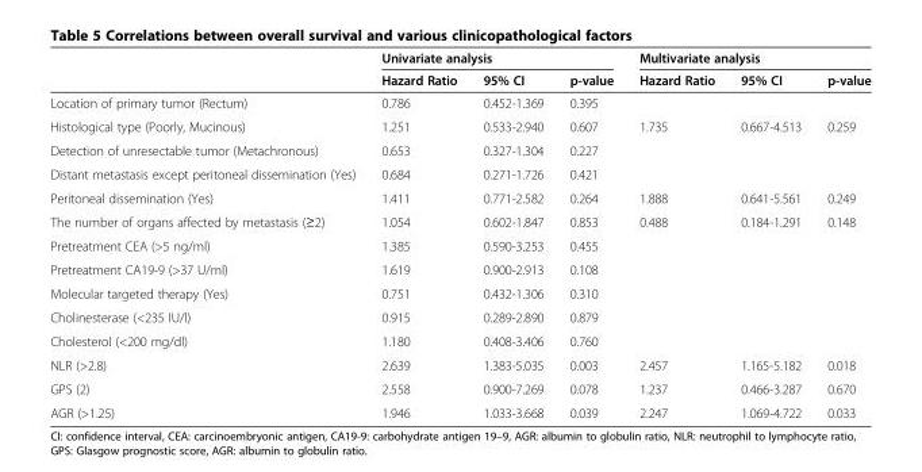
<table><thead><tr><td rowspan="2"></td><td colspan="3">Univariate analysis</td><td colspan="3">Multivariate analysis</td></tr><tr><td>Hazard Ratio</td><td>95% CI</td><td>p-value</td><td>Hazard Ratio</td><td>95% CI</td><td>p-value</td></tr></thead><tbody><tr><td>Location of primary tumor (Rectum)</td><td>0.786</td><td>0.452-1.369</td><td>0.395</td><td></td><td></td><td></td></tr><tr><td>Histological type (Poorly, Mucinous)</td><td>1.251</td><td>0.533-2.940</td><td>0.607</td><td>1.735</td><td>0.667-4.513</td><td>0.259</td></tr><tr><td>Detection of unresectable tumor (Metachronous)</td><td>0.653</td><td>0.327-1.304</td><td>0.227</td><td></td><td></td><td></td></tr><tr><td>Distant metastasis except peritoneal dissemination (Yes)</td><td>0.684</td><td>0.271-1.726</td><td>0.421</td><td></td><td></td><td></td></tr><tr><td>Peritoneal dissemination (Yes)</td><td>1.411</td><td>0.771-2.582</td><td>0.264</td><td>1.888</td><td>0.641-5.561</td><td>0.249</td></tr><tr><td>The number of organs affected by metastasis (≥2)</td><td>1.054</td><td>0.602-1.847</td><td>0.853</td><td>0.488</td><td>0.184-1.291</td><td>0.148</td></tr><tr><td>Pretreatment CEA (&gt;5 ng/ml)</td><td>1.385</td><td>0.590-3.253</td><td>0.455</td><td></td><td></td><td></td></tr><tr><td>Pretreatment CA19-9 (&gt;37 U/ml)</td><td>1.619</td><td>0.900-2.913</td><td>0.108</td><td></td><td></td><td></td></tr><tr><td>Molecular targeted therapy (Yes)</td><td>0.751</td><td>0.432-1.306</td><td>0.310</td><td></td><td></td><td></td></tr><tr><td>Cholinesterase (&lt;235 IU/l)</td><td>0.915</td><td>0.289-2.890</td><td>0.879</td><td></td><td></td><td></td></tr><tr><td>Cholesterol (&lt;200 mg/dl)</td><td>1.180</td><td>0.408-3.406</td><td>0.760</td><td></td><td></td><td></td></tr><tr><td>NLR (&gt;2.8)</td><td>2.639</td><td>1.383-5.035</td><td>0.003</td><td>2.457</td><td>1.165-5.182</td><td>0.018</td></tr><tr><td>GPS (2)</td><td>2.558</td><td>0.900-7.269</td><td>0.078</td><td>1.237</td><td>0.466-3.287</td><td>0.670</td></tr><tr><td>AGR (&gt;1.25)</td><td>1.946</td><td>1.033-3.668</td><td>0.039</td><td>2.247</td><td>1.069-4.722</td><td>0.033</td></tr></tbody></table>